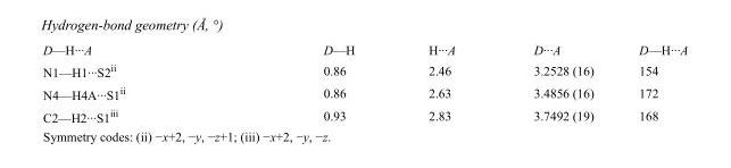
<table><tbody><tr><td>D—H···A</td><td>D—H</td><td>H···A</td><td>D···A</td><td>D—H···A</td></tr><tr><td>N1—H1···S2<sup>ii</sup></td><td>0.86</td><td>2.46</td><td>3.2528 (16)</td><td>154</td></tr><tr><td>N4—H4A···S1<sup>ii</sup></td><td>0.86</td><td>2.63</td><td>3.4856 (16)</td><td>172</td></tr><tr><td>C2—H2···S1<sup>iii</sup></td><td>0.93</td><td>2.83</td><td>3.7492 (19)</td><td>168</td></tr></tbody></table>